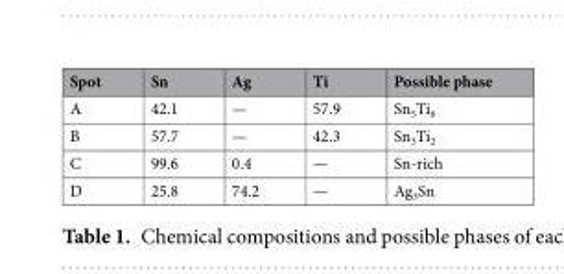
<table><thead><tr><td>Spot</td><td>Sn</td><td>Ag</td><td>Ti</td><td>Possible phase</td></tr></thead><tbody><tr><td>A</td><td>42.1</td><td>—</td><td>57.9</td><td>Sn<sub>5</sub>Ti<sub>6</sub></td></tr><tr><td>B</td><td>57.7</td><td>—</td><td>42.3</td><td>Sn<sub>3</sub>Ti<sub>2</sub></td></tr><tr><td>C</td><td>99.6</td><td>0.4</td><td>—</td><td>Sn-rich</td></tr><tr><td>D</td><td>25.8</td><td>74.2</td><td>—</td><td>Ag<sub>3</sub>Sn</td></tr></tbody></table>